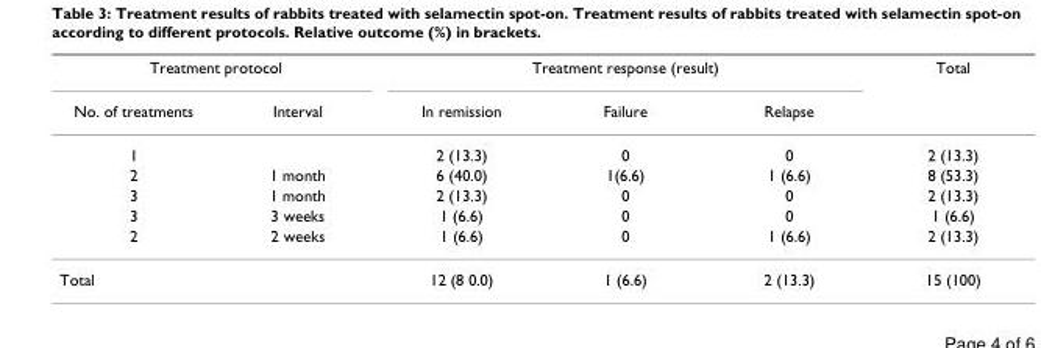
<table><thead><tr><td colspan="2">Treatment protocol</td><td colspan="3">Treatment response (result)</td><td rowspan="2">Total</td></tr><tr><td>No. of treatments</td><td>Interval</td><td>In remission</td><td>Failure</td><td>Relapse</td></tr></thead><tbody><tr><td>1</td><td></td><td>2 (13.3)</td><td>0</td><td>0</td><td>2 (13.3)</td></tr><tr><td>2</td><td>1 month</td><td>6 (40.0)</td><td>1(6.6)</td><td>1 (6.6)</td><td>8 (53.3)</td></tr><tr><td>3</td><td>1 month</td><td>2 (13.3)</td><td>0</td><td>0</td><td>2 (13.3)</td></tr><tr><td>3</td><td>3 weeks</td><td>1 (6.6)</td><td>0</td><td>0</td><td>1 (6.6)</td></tr><tr><td>2</td><td>2 weeks</td><td>1 (6.6)</td><td>0</td><td>1 (6.6)</td><td>2 (13.3)</td></tr><tr><td>Total</td><td></td><td>12 (8 0.0)</td><td>1 (6.6)</td><td>2 (13.3)</td><td>15 (100)</td></tr></tbody></table>